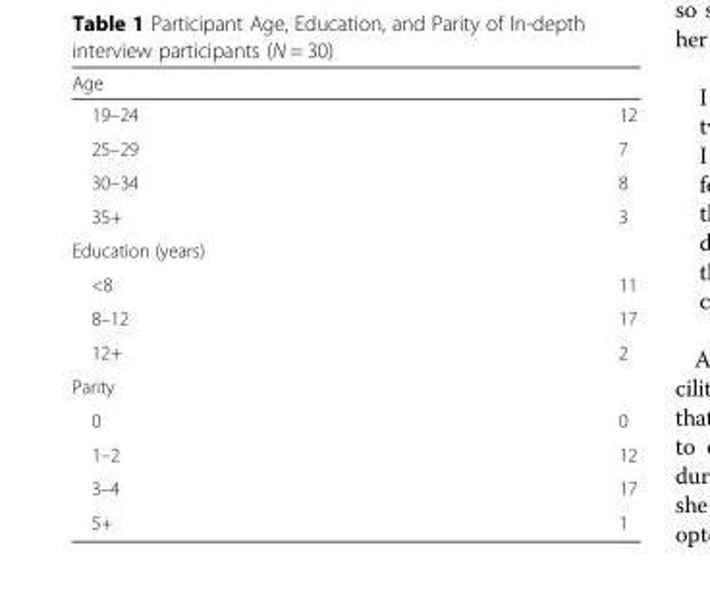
<table><thead><tr><td>Age</td><td></td></tr></thead><tbody><tr><td>19–24</td><td>12</td></tr><tr><td>25–29</td><td>7</td></tr><tr><td>30–34</td><td>8</td></tr><tr><td>35+</td><td>3</td></tr><tr><td colspan="2">Education (years)</td></tr><tr><td>&lt;8</td><td>11</td></tr><tr><td>8–12</td><td>17</td></tr><tr><td>12+</td><td>2</td></tr><tr><td colspan="2">Parity</td></tr><tr><td>0</td><td>0</td></tr><tr><td>1–2</td><td>12</td></tr><tr><td>3–4</td><td>17</td></tr><tr><td>5+</td><td>1</td></tr></tbody></table>